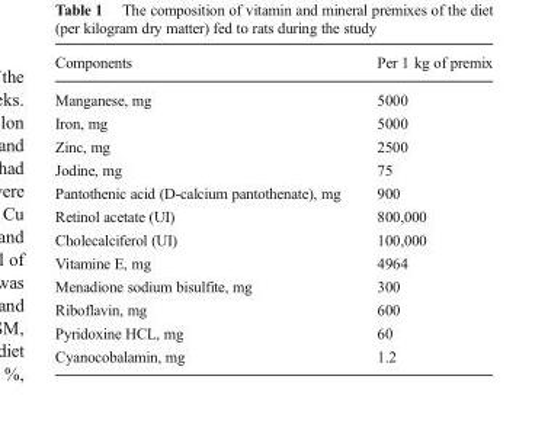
<table><thead><tr><td>Components</td><td>Per 1 kg of premix</td></tr></thead><tbody><tr><td>Manganese, mg</td><td>5000</td></tr><tr><td>Iron, mg</td><td>5000</td></tr><tr><td>Zinc, mg</td><td>2500</td></tr><tr><td>Jodine, mg</td><td>75</td></tr><tr><td>Pantothenic acid (D-calcium pantothenate), mg</td><td>900</td></tr><tr><td>Retinol acetate (UI)</td><td>800,000</td></tr><tr><td>Cholecalciferol (UI)</td><td>100,000</td></tr><tr><td>Vitamine E, mg</td><td>4964</td></tr><tr><td>Menadione sodium bisulfite, mg</td><td>300</td></tr><tr><td>Riboflavin, mg</td><td>600</td></tr><tr><td>Pyridoxine HCL, mg</td><td>60</td></tr><tr><td>Cyanocobalamin, mg</td><td>1.2</td></tr></tbody></table>